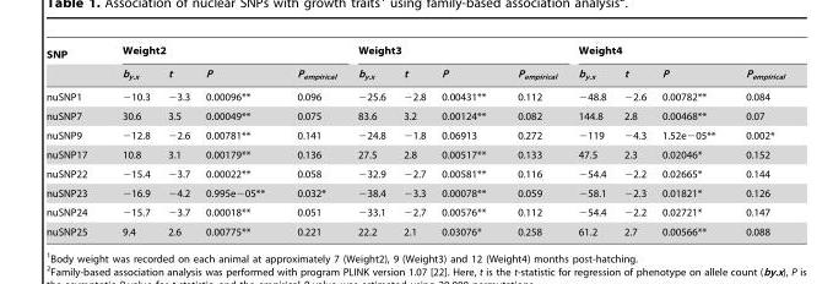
<table><thead><tr><td rowspan="2">SNP</td><td colspan="4">Weight2</td><td colspan="4">Weight3</td><td colspan="4">Weight4</td></tr><tr><td>b<sub>y.x</sub></td><td>t</td><td>P</td><td>P<sub>empirical</sub></td><td>b<sub>y.x</sub></td><td>t</td><td>P</td><td>P<sub>empirical</sub></td><td>b<sub>y.x</sub></td><td>t</td><td>P</td><td>P<sub>empirical</sub></td></tr></thead><tbody><tr><td>nuSNP1</td><td>−10.3</td><td>−3.3</td><td>0.00096**</td><td>0.096</td><td>−25.6</td><td>−2.8</td><td>0.00431**</td><td>0.112</td><td>−48.8</td><td>−2.6</td><td>0.00782**</td><td>0.084</td></tr><tr><td>nuSNP7</td><td>30.6</td><td>3.5</td><td>0.00049**</td><td>0.075</td><td>83.6</td><td>3.2</td><td>0.00124**</td><td>0.082</td><td>144.8</td><td>2.8</td><td>0.00468**</td><td>0.07</td></tr><tr><td>nuSNP9</td><td>−12.8</td><td>−2.6</td><td>0.00781**</td><td>0.141</td><td>−24.8</td><td>−1.8</td><td>0.06913</td><td>0.272</td><td>−119</td><td>−4.3</td><td>1.52e−05**</td><td>0.002*</td></tr><tr><td>nuSNP17</td><td>10.8</td><td>3.1</td><td>0.00179**</td><td>0.136</td><td>27.5</td><td>2.8</td><td>0.00517**</td><td>0.133</td><td>47.5</td><td>2.3</td><td>0.02046*</td><td>0.152</td></tr><tr><td>nuSNP22</td><td>−15.4</td><td>−3.7</td><td>0.00022**</td><td>0.058</td><td>−32.9</td><td>−2.7</td><td>0.00581**</td><td>0.116</td><td>−54.4</td><td>−2.2</td><td>0.02665*</td><td>0.144</td></tr><tr><td>nuSNP23</td><td>−16.9</td><td>−4.2</td><td>0.995e−05**</td><td>0.032*</td><td>−38.4</td><td>−3.3</td><td>0.00078**</td><td>0.059</td><td>−58.1</td><td>−2.3</td><td>0.01821*</td><td>0.126</td></tr><tr><td>nuSNP24</td><td>−15.7</td><td>−3.7</td><td>0.00018**</td><td>0.051</td><td>−33.1</td><td>−2.7</td><td>0.00576**</td><td>0.112</td><td>−54.4</td><td>−2.2</td><td>0.02721*</td><td>0.147</td></tr><tr><td>nuSNP25</td><td>9.4</td><td>2.6</td><td>0.00775**</td><td>0.221</td><td>22.2</td><td>2.1</td><td>0.03076*</td><td>0.258</td><td>61.2</td><td>2.7</td><td>0.00566**</td><td>0.088</td></tr></tbody></table>